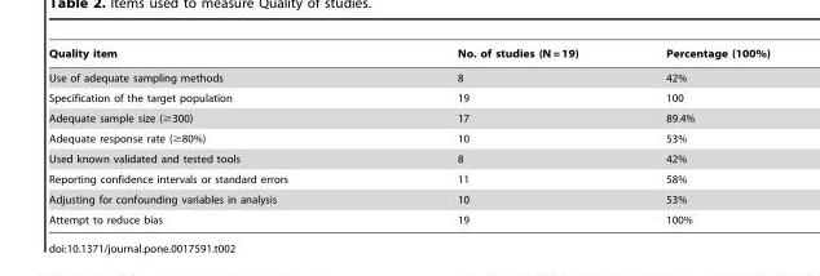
<table><thead><tr><td>Quality item</td><td>No. of studies (N = 19)</td><td>Percentage (100%)</td></tr></thead><tbody><tr><td>Use of adequate sampling methods</td><td>8</td><td>42%</td></tr><tr><td>Specification of the target population</td><td>19</td><td>100</td></tr><tr><td>Adequate sample size (≥300)</td><td>17</td><td>89.4%</td></tr><tr><td>Adequate response rate (≥80%)</td><td>10</td><td>53%</td></tr><tr><td>Used known validated and tested tools</td><td>8</td><td>42%</td></tr><tr><td>Reporting confidence intervals or standard errors</td><td>11</td><td>58%</td></tr><tr><td>Adjusting for confounding variables in analysis</td><td>10</td><td>53%</td></tr><tr><td>Attempt to reduce bias</td><td>19</td><td>100%</td></tr></tbody></table>